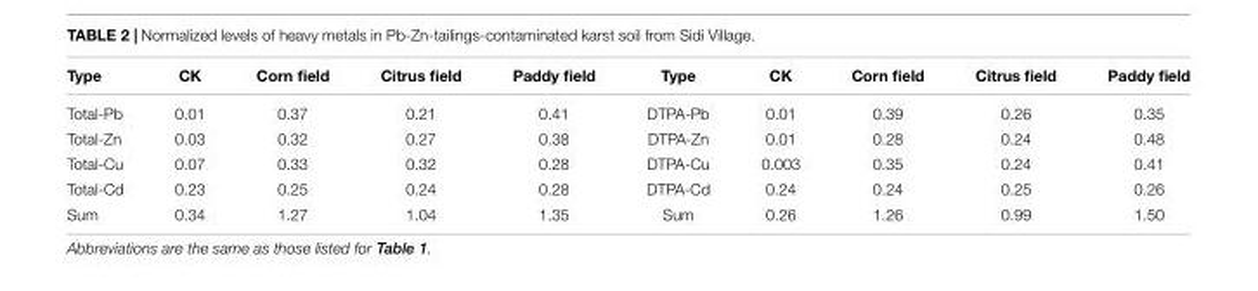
<table><thead><tr><td>Type</td><td>CK</td><td>Corn field</td><td>Citrus field</td><td>Paddy field</td><td>Type</td><td>CK</td><td>Corn field</td><td>Citrus field</td><td>Paddy field</td></tr></thead><tbody><tr><td>Total-Pb</td><td>0.01</td><td>0.37</td><td>0.21</td><td>0.41</td><td>DTPA-Pb</td><td>0.01</td><td>0.39</td><td>0.26</td><td>0.35</td></tr><tr><td>Total-Zn</td><td>0.03</td><td>0.32</td><td>0.27</td><td>0.38</td><td>DTPA-Zn</td><td>0.01</td><td>0.28</td><td>0.24</td><td>0.48</td></tr><tr><td>Total-Cu</td><td>0.07</td><td>0.33</td><td>0.32</td><td>0.28</td><td>DTPA-Cu</td><td>0.003</td><td>0.35</td><td>0.24</td><td>0.41</td></tr><tr><td>Total-Cd</td><td>0.23</td><td>0.25</td><td>0.24</td><td>0.28</td><td>DTPA-Cd</td><td>0.24</td><td>0.24</td><td>0.25</td><td>0.26</td></tr><tr><td>Sum</td><td>0.34</td><td>1.27</td><td>1.04</td><td>1.35</td><td>Sum</td><td>0.26</td><td>1.26</td><td>0.99</td><td>1.50</td></tr></tbody></table>